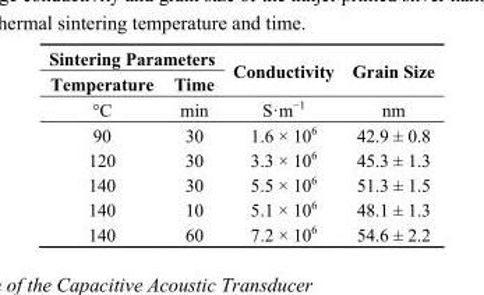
<table><thead><tr><td colspan="2">Sintering Parameters</td><td rowspan="3">Conductivity S·m<sup>−1</sup></td><td rowspan="3">Grain Size nm</td></tr><tr><td rowspan="2">Temperature °C</td><td rowspan="2">Time min</td></tr><tr></tr></thead><tbody><tr><td>90</td><td>30</td><td>1.6 × 10<sup>6</sup></td><td>42.9 ± 0.8</td></tr><tr><td>120</td><td>30</td><td>3.3 × 10<sup>6</sup></td><td>45.3 ± 1.3</td></tr><tr><td>140</td><td>30</td><td>5.5 × 10<sup>6</sup></td><td>51.3 ± 1.5</td></tr><tr><td>140</td><td>10</td><td>5.1 × 10<sup>6</sup></td><td>48.1 ± 1.3</td></tr><tr><td>140</td><td>60</td><td>7.2 × 10<sup>6</sup></td><td>54.6 ± 2.2</td></tr></tbody></table>